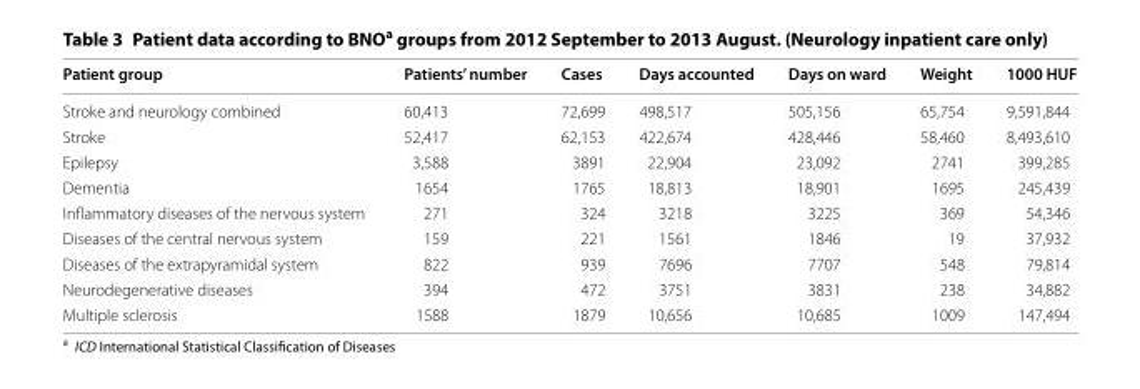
<table><thead><tr><td>Patient group</td><td>Patients’ number</td><td>Cases</td><td>Days accounted</td><td>Days on ward</td><td>Weight</td><td>1000 HUF</td></tr></thead><tbody><tr><td>Stroke and neurology combined</td><td>60,413</td><td>72,699</td><td>498,517</td><td>505,156</td><td>65,754</td><td>9,591,844</td></tr><tr><td>Stroke</td><td>52,417</td><td>62,153</td><td>422,674</td><td>428,446</td><td>58,460</td><td>8,493,610</td></tr><tr><td>Epilepsy</td><td>3,588</td><td>3891</td><td>22,904</td><td>23,092</td><td>2741</td><td>399,285</td></tr><tr><td>Dementia</td><td>1654</td><td>1765</td><td>18,813</td><td>18,901</td><td>1695</td><td>245,439</td></tr><tr><td>Inflammatory diseases of the nervous system</td><td>271</td><td>324</td><td>3218</td><td>3225</td><td>369</td><td>54,346</td></tr><tr><td>Diseases of the central nervous system</td><td>159</td><td>221</td><td>1561</td><td>1846</td><td>19</td><td>37,932</td></tr><tr><td>Diseases of the extrapyramidal system</td><td>822</td><td>939</td><td>7696</td><td>7707</td><td>548</td><td>79,814</td></tr><tr><td>Neurodegenerative diseases</td><td>394</td><td>472</td><td>3751</td><td>3831</td><td>238</td><td>34,882</td></tr><tr><td>Multiple sclerosis</td><td>1588</td><td>1879</td><td>10,656</td><td>10,685</td><td>1009</td><td>147,494</td></tr></tbody></table>